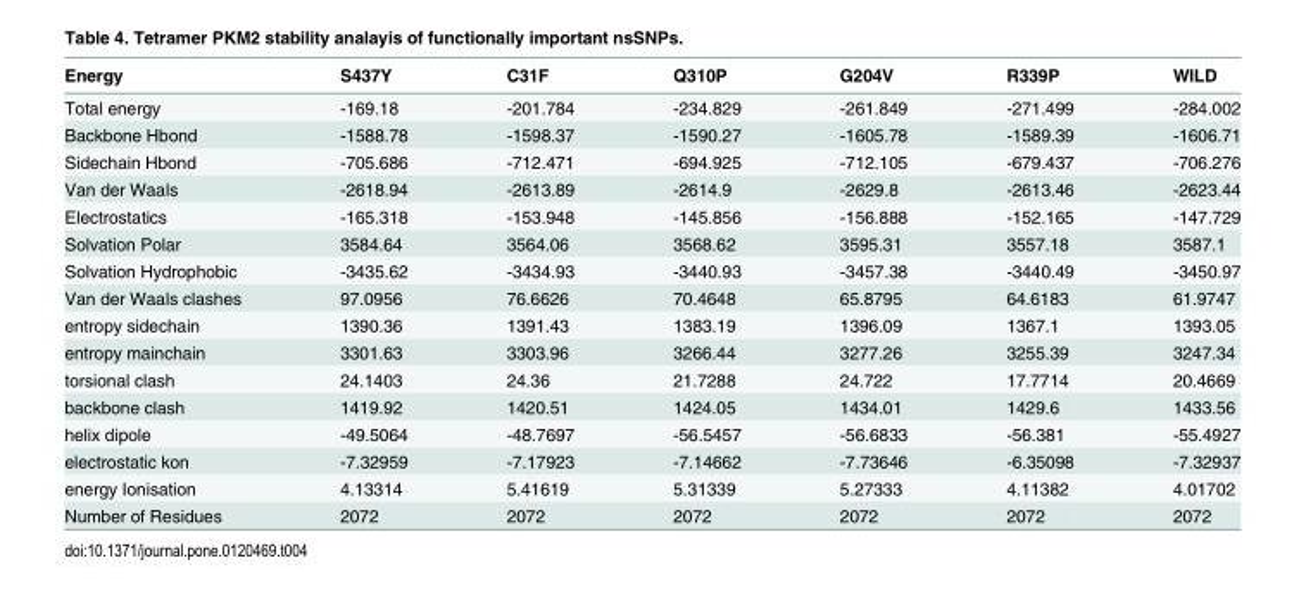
<table><thead><tr><td>Energy</td><td>S437Y</td><td>C31F</td><td>Q310P</td><td>G204V</td><td>R339P</td><td>WILD</td></tr></thead><tbody><tr><td>Total energy</td><td>-169.18</td><td>-201.784</td><td>-234.829</td><td>-261.849</td><td>-271.499</td><td>-284.002</td></tr><tr><td>Backbone Hbond</td><td>-1588.78</td><td>-1598.37</td><td>-1590.27</td><td>-1605.78</td><td>-1589.39</td><td>-1606.71</td></tr><tr><td>Sidechain Hbond</td><td>-705.686</td><td>-712.471</td><td>-694.925</td><td>-712.105</td><td>-679.437</td><td>-706.276</td></tr><tr><td>Van der Waals</td><td>-2618.94</td><td>-2613.89</td><td>-2614.9</td><td>-2629.8</td><td>-2613.46</td><td>-2623.44</td></tr><tr><td>Electrostatics</td><td>-165.318</td><td>-153.948</td><td>-145.856</td><td>-156.888</td><td>-152.165</td><td>-147.729</td></tr><tr><td>Solvation Polar</td><td>3584.64</td><td>3564.06</td><td>3568.62</td><td>3595.31</td><td>3557.18</td><td>3587.1</td></tr><tr><td>Solvation Hydrophobic</td><td>-3435.62</td><td>-3434.93</td><td>-3440.93</td><td>-3457.38</td><td>-3440.49</td><td>-3450.97</td></tr><tr><td>Van der Waals clashes</td><td>97.0956</td><td>76.6626</td><td>70.4648</td><td>65.8795</td><td>64.6183</td><td>61.9747</td></tr><tr><td>entropy sidechain</td><td>1390.36</td><td>1391.43</td><td>1383.19</td><td>1396.09</td><td>1367.1</td><td>1393.05</td></tr><tr><td>entropy mainchain</td><td>3301.63</td><td>3303.96</td><td>3266.44</td><td>3277.26</td><td>3255.39</td><td>3247.34</td></tr><tr><td>torsional clash</td><td>24.1403</td><td>24.36</td><td>21.7288</td><td>24.722</td><td>17.7714</td><td>20.4669</td></tr><tr><td>backbone clash</td><td>1419.92</td><td>1420.51</td><td>1424.05</td><td>1434.01</td><td>1429.6</td><td>1433.56</td></tr><tr><td>helix dipole</td><td>-49.5064</td><td>-48.7697</td><td>-56.5457</td><td>-56.6833</td><td>-56.381</td><td>-55.4927</td></tr><tr><td>electrostatic kon</td><td>-7.32959</td><td>-7.17923</td><td>-7.14662</td><td>-7.73646</td><td>-6.35098</td><td>-7.32937</td></tr><tr><td>energy Ionisation</td><td>4.13314</td><td>5.41619</td><td>5.31339</td><td>5.27333</td><td>4.11382</td><td>4.01702</td></tr><tr><td>Number of Residues</td><td>2072</td><td>2072</td><td>2072</td><td>2072</td><td>2072</td><td>2072</td></tr></tbody></table>